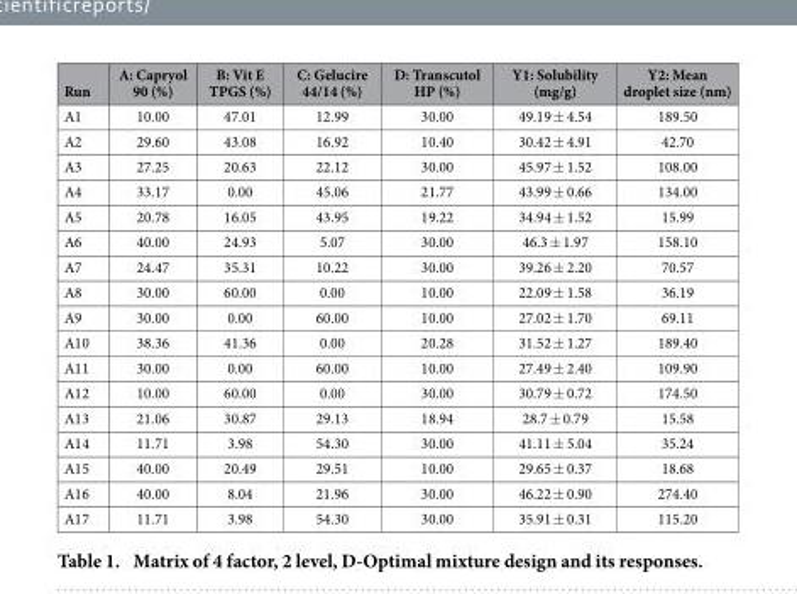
<table><thead><tr><td>Run</td><td>A: Capryol 90 (%)</td><td>B: Vit E TPGS (%)</td><td>C: Gelucire 44/14 (%)</td><td>D: Transcutol HP (%)</td><td>Y1: Solubility (mg/g)</td><td>Y2: Mean droplet size (nm)</td></tr></thead><tbody><tr><td>A1</td><td>10.00</td><td>47.01</td><td>12.99</td><td>30.00</td><td>49.19 ± 4.54</td><td>189.50</td></tr><tr><td>A2</td><td>29.60</td><td>43.08</td><td>16.92</td><td>10.40</td><td>30.42 ± 4.91</td><td>42.70</td></tr><tr><td>A3</td><td>27.25</td><td>20.63</td><td>22.12</td><td>30.00</td><td>45.97 ± 1.52</td><td>108.00</td></tr><tr><td>A4</td><td>33.17</td><td>0.00</td><td>45.06</td><td>21.77</td><td>43.99 ± 0.66</td><td>134.00</td></tr><tr><td>A5</td><td>20.78</td><td>16.05</td><td>43.95</td><td>19.22</td><td>34.94 ± 1.52</td><td>15.99</td></tr><tr><td>A6</td><td>40.00</td><td>24.93</td><td>5.07</td><td>30.00</td><td>46.3 ± 1.97</td><td>158.10</td></tr><tr><td>A7</td><td>24.47</td><td>35.31</td><td>10.22</td><td>30.00</td><td>39.26 ± 2.20</td><td>70.57</td></tr><tr><td>A8</td><td>30.00</td><td>60.00</td><td>0.00</td><td>10.00</td><td>22.09 ± 1.58</td><td>36.19</td></tr><tr><td>A9</td><td>30.00</td><td>0.00</td><td>60.00</td><td>10.00</td><td>27.02 ± 1.70</td><td>69.11</td></tr><tr><td>A10</td><td>38.36</td><td>41.36</td><td>0.00</td><td>20.28</td><td>31.52 ± 1.27</td><td>189.40</td></tr><tr><td>A11</td><td>30.00</td><td>0.00</td><td>60.00</td><td>10.00</td><td>27.49 ± 2.40</td><td>109.90</td></tr><tr><td>A12</td><td>10.00</td><td>60.00</td><td>0.00</td><td>30.00</td><td>30.79 ± 0.72</td><td>174.50</td></tr><tr><td>A13</td><td>21.06</td><td>30.87</td><td>29.13</td><td>18.94</td><td>28.7 ± 0.79</td><td>15.58</td></tr><tr><td>A14</td><td>11.71</td><td>3.98</td><td>54.30</td><td>30.00</td><td>41.11 ± 5.04</td><td>35.24</td></tr><tr><td>A15</td><td>40.00</td><td>20.49</td><td>29.51</td><td>10.00</td><td>29.65 ± 0.37</td><td>18.68</td></tr><tr><td>A16</td><td>40.00</td><td>8.04</td><td>21.96</td><td>30.00</td><td>46.22 ± 0.90</td><td>274.40</td></tr><tr><td>A17</td><td>11.71</td><td>3.98</td><td>54.30</td><td>30.00</td><td>35.91 ± 0.31</td><td>115.20</td></tr></tbody></table>